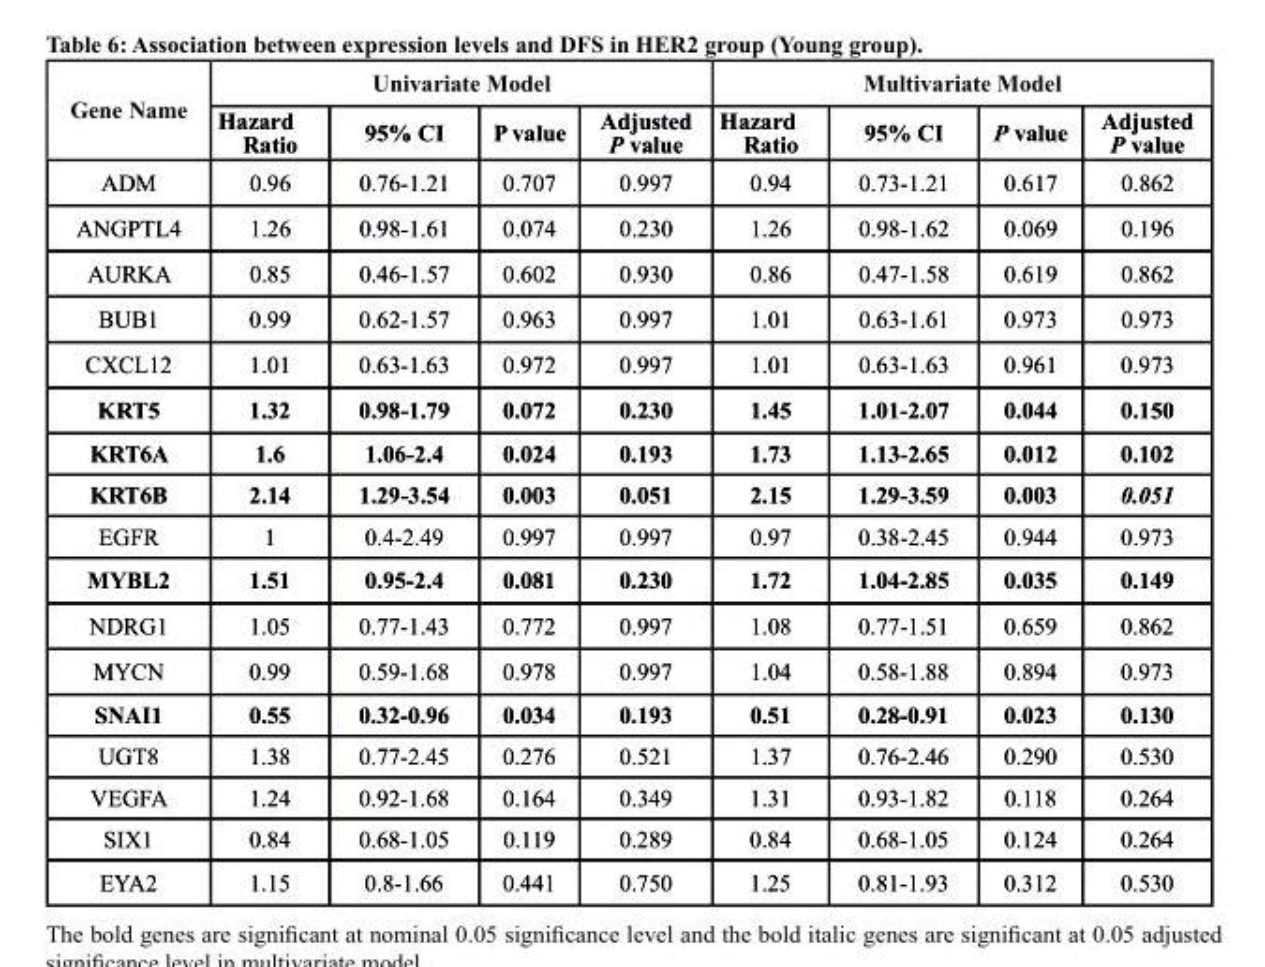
<table><thead><tr><td rowspan="2">Gene Name</td><td colspan="4">Univariate Model</td><td colspan="4">Multivariate Model</td></tr><tr><td>Hazard Ratio</td><td>95% CI</td><td>P value</td><td>Adjusted P value</td><td>Hazard Ratio</td><td>95% CI</td><td>P value</td><td>Adjusted P value</td></tr></thead><tbody><tr><td>ADM</td><td>0.96</td><td>0.76-1.21</td><td>0.707</td><td>0.997</td><td>0.94</td><td>0.73-1.21</td><td>0.617</td><td>0.862</td></tr><tr><td>ANGPTL4</td><td>1.26</td><td>0.98-1.61</td><td>0.074</td><td>0.230</td><td>1.26</td><td>0.98-1.62</td><td>0.069</td><td>0.196</td></tr><tr><td>AURKA</td><td>0.85</td><td>0.46-1.57</td><td>0.602</td><td>0.930</td><td>0.86</td><td>0.47-1.58</td><td>0.619</td><td>0.862</td></tr><tr><td>BUB1</td><td>0.99</td><td>0.62-1.57</td><td>0.963</td><td>0.997</td><td>1.01</td><td>0.63-1.61</td><td>0.973</td><td>0.973</td></tr><tr><td>CXCL12</td><td>1.01</td><td>0.63-1.63</td><td>0.972</td><td>0.997</td><td>1.01</td><td>0.63-1.63</td><td>0.961</td><td>0.973</td></tr><tr><td>KRT5</td><td>1.32</td><td>0.98-1.79</td><td>0.072</td><td>0.230</td><td>1.45</td><td>1.01-2.07</td><td>0.044</td><td>0.150</td></tr><tr><td>KRT6A</td><td>1.6</td><td>1.06-2.4</td><td>0.024</td><td>0.193</td><td>1.73</td><td>1.13-2.65</td><td>0.012</td><td>0.102</td></tr><tr><td>KRT6B</td><td>2.14</td><td>1.29-3.54</td><td>0.003</td><td>0.051</td><td>2.15</td><td>1.29-3.59</td><td>0.003</td><td>0.051</td></tr><tr><td>EGFR</td><td>1</td><td>0.4-2.49</td><td>0.997</td><td>0.997</td><td>0.97</td><td>0.38-2.45</td><td>0.944</td><td>0.973</td></tr><tr><td>MYBL2</td><td>1.51</td><td>0.95-2.4</td><td>0.081</td><td>0.230</td><td>1.72</td><td>1.04-2.85</td><td>0.035</td><td>0.149</td></tr><tr><td>NDRG1</td><td>1.05</td><td>0.77-1.43</td><td>0.772</td><td>0.997</td><td>1.08</td><td>0.77-1.51</td><td>0.659</td><td>0.862</td></tr><tr><td>MYCN</td><td>0.99</td><td>0.59-1.68</td><td>0.978</td><td>0.997</td><td>1.04</td><td>0.58-1.88</td><td>0.894</td><td>0.973</td></tr><tr><td>SNAI1</td><td>0.55</td><td>0.32-0.96</td><td>0.034</td><td>0.193</td><td>0.51</td><td>0.28-0.91</td><td>0.023</td><td>0.130</td></tr><tr><td>UGT8</td><td>1.38</td><td>0.77-2.45</td><td>0.276</td><td>0.521</td><td>1.37</td><td>0.76-2.46</td><td>0.290</td><td>0.530</td></tr><tr><td>VEGFA</td><td>1.24</td><td>0.92-1.68</td><td>0.164</td><td>0.349</td><td>1.31</td><td>0.93-1.82</td><td>0.118</td><td>0.264</td></tr><tr><td>SIX1</td><td>0.84</td><td>0.68-1.05</td><td>0.119</td><td>0.289</td><td>0.84</td><td>0.68-1.05</td><td>0.124</td><td>0.264</td></tr><tr><td>EYA2</td><td>1.15</td><td>0.8-1.66</td><td>0.441</td><td>0.750</td><td>1.25</td><td>0.81-1.93</td><td>0.312</td><td>0.530</td></tr></tbody></table>